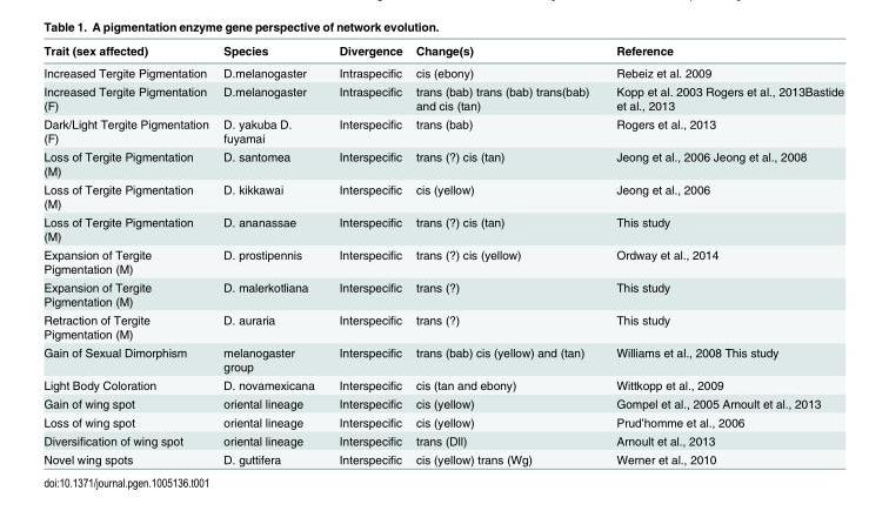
<table><thead><tr><td>Trait (sex affected)</td><td>Species</td><td>Divergence</td><td>Change(s)</td><td>Reference</td></tr></thead><tbody><tr><td>Increased Tergite Pigmentation</td><td>D.melanogaster</td><td>Intraspecific</td><td>cis (ebony)</td><td>Rebeiz et al. 2009</td></tr><tr><td>Increased Tergite Pigmentation (F)</td><td>D.melanogaster</td><td>Intraspecific</td><td>trans (bab) trans (bab) trans(bab) and cis (tan)</td><td>Kopp et al. 2003 Rogers et al., 2013Bastide et al., 2013</td></tr><tr><td>Dark/Light Tergite Pigmentation (F)</td><td>D. yakuba D. fuyamai</td><td>Interspecific</td><td>trans (bab)</td><td>Rogers et al., 2013</td></tr><tr><td>Loss of Tergite Pigmentation (M)</td><td>D. santomea</td><td>Interspecific</td><td>trans (?) cis (tan)</td><td>Jeong et al., 2006 Jeong et al., 2008</td></tr><tr><td>Loss of Tergite Pigmentation (M)</td><td>D. kikkawai</td><td>Interspecific</td><td>cis (yellow)</td><td>Jeong et al., 2006</td></tr><tr><td>Loss of Tergite Pigmentation (M)</td><td>D. ananassae</td><td>Interspecific</td><td>trans (?) cis (tan)</td><td>This study</td></tr><tr><td>Expansion of Tergite Pigmentation (M)</td><td>D. prostipennis</td><td>Interspecific</td><td>trans (?) cis (yellow)</td><td>Ordway et al., 2014</td></tr><tr><td>Expansion of Tergite Pigmentation (M)</td><td>D. malerkotliana</td><td>Interspecific</td><td>trans (?)</td><td>This study</td></tr><tr><td>Retraction of Tergite Pigmentation (M)</td><td>D. auraria</td><td>Interspecific</td><td>trans (?)</td><td>This study</td></tr><tr><td>Gain of Sexual Dimorphism</td><td>melanogaster group</td><td>Interspecific</td><td>trans (bab) cis (yellow) and (tan)</td><td>Williams et al., 2008 This study</td></tr><tr><td>Light Body Coloration</td><td>D. novamexicana</td><td>Interspecific</td><td>cis (tan and ebony)</td><td>Wittkopp et al., 2009</td></tr><tr><td>Gain of wing spot</td><td>oriental lineage</td><td>Interspecific</td><td>cis (yellow)</td><td>Gompel et al., 2005 Arnoult et al., 2013</td></tr><tr><td>Loss of wing spot</td><td>oriental lineage</td><td>Interspecific</td><td>cis (yellow)</td><td>Prud’homme et al., 2006</td></tr><tr><td>Diversification of wing spot</td><td>oriental lineage</td><td>Interspecific</td><td>trans (Dll)</td><td>Arnoult et al., 2013</td></tr><tr><td>Novel wing spots</td><td>D. guttifera</td><td>Interspecific</td><td>cis (yellow) trans (Wg)</td><td>Werner et al., 2010</td></tr></tbody></table>